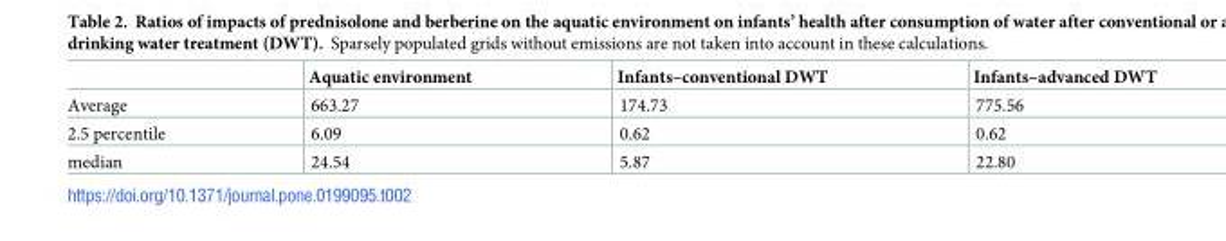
<table><thead><tr><td></td><td>Aquatic environment</td><td>Infants–conventional DWT</td><td>Infants–advanced DWT</td></tr></thead><tbody><tr><td>Average</td><td>663.27</td><td>174.73</td><td>775.56</td></tr><tr><td>2.5 percentile</td><td>6.09</td><td>0.62</td><td>0.62</td></tr><tr><td>median</td><td>24.54</td><td>5.87</td><td>22.80</td></tr></tbody></table>